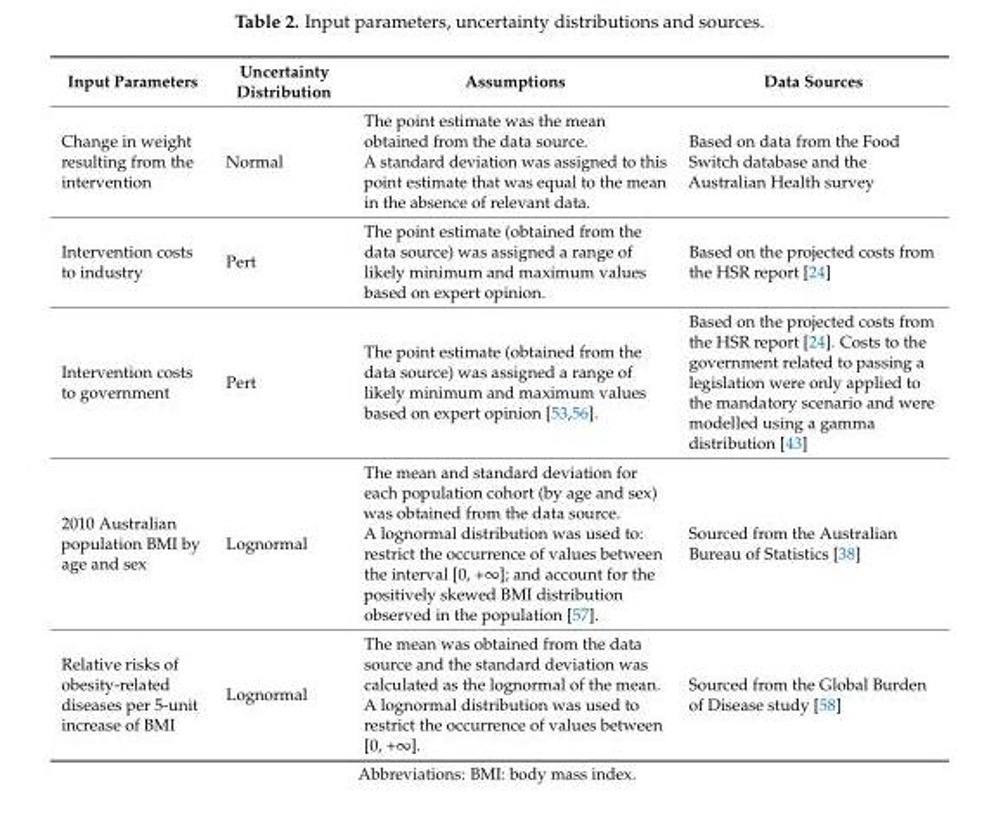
<table><thead><tr><td>Input Parameters</td><td>Uncertainty Distribution</td><td>Assumptions</td><td>Data Sources</td></tr></thead><tbody><tr><td>Change in weight resulting from the intervention</td><td>Normal</td><td>The point estimate was the mean obtained from the data source. A standard deviation was assigned to this point estimate that was equal to the mean in the absence of relevant data.</td><td>Based on data from the Food Switch database and the Australian Health survey</td></tr><tr><td>Intervention costs to industry</td><td>Pert</td><td>The point estimate (obtained from the data source) was assigned a range of likely minimum and maximum values based on expert opinion.</td><td>Based on the projected costs from the HSR report [24]</td></tr><tr><td>Intervention costs to government</td><td>Pert</td><td>The point estimate (obtained from the data source) was assigned a range of likely minimum and maximum values based on expert opinion [53,56].</td><td>Based on the projected costs from the HSR report [24]. Costs to the government related to passing a legislation were only applied to the mandatory scenario and were modelled using a gamma distribution [43]</td></tr><tr><td>2010 Australian population BMI by age and sex</td><td>Lognormal</td><td>The mean and standard deviation for each population cohort (by age and sex) was obtained from the data source. A lognormal distribution was used to: restrict the occurrence of values between the interval [0, +∞]; and account for the positively skewed BMI distribution observed in the population [57].</td><td>Sourced from the Australian Bureau of Statistics [38]</td></tr><tr><td>Relative risks of obesity-related diseases per 5-unit increase of BMI</td><td>Lognormal</td><td>The mean was obtained from the data source and the standard deviation was calculated as the lognormal of the mean. A lognormal distribution was used to restrict the occurrence of values between [0, +∞].</td><td>Sourced from the Global Burden of Disease study [58]</td></tr></tbody></table>